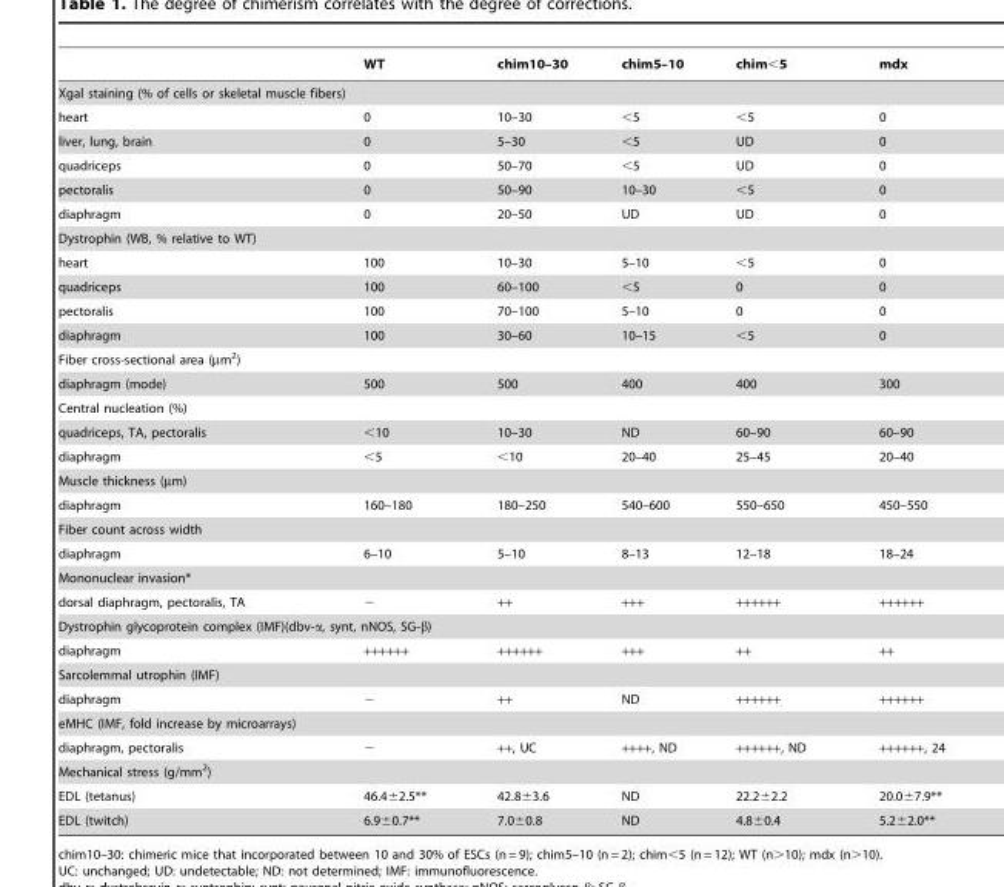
<table><thead><tr><td></td><td>WT</td><td>chim10–30</td><td>chim5–10</td><td>chim&lt;5</td><td>mdx</td></tr></thead><tbody><tr><td colspan="6">Xgal staining (% of cells or skeletal muscle fibers)</td></tr><tr><td>heart</td><td>0</td><td>10–30</td><td>&lt;5</td><td>&lt;5</td><td>0</td></tr><tr><td>liver, lung, brain</td><td>0</td><td>5–30</td><td>&lt;5</td><td>UD</td><td>0</td></tr><tr><td>quadriceps</td><td>0</td><td>50–70</td><td>&lt;5</td><td>UD</td><td>0</td></tr><tr><td>pectoralis</td><td>0</td><td>50–90</td><td>10–30</td><td>&lt;5</td><td>0</td></tr><tr><td>diaphragm</td><td>0</td><td>20–50</td><td>UD</td><td>UD</td><td>0</td></tr><tr><td colspan="6">Dystrophin (WB, % relative to WT)</td></tr><tr><td>heart</td><td>100</td><td>10–30</td><td>5–10</td><td>&lt;5</td><td>0</td></tr><tr><td>quadriceps</td><td>100</td><td>60–100</td><td>&lt;5</td><td>0</td><td>0</td></tr><tr><td>pectoralis</td><td>100</td><td>70–100</td><td>5–10</td><td>0</td><td>0</td></tr><tr><td>diaphragm</td><td>100</td><td>30–60</td><td>10–15</td><td>&lt;5</td><td>0</td></tr><tr><td colspan="6">Fiber cross-sectional area (µm<sup>2</sup>)</td></tr><tr><td>diaphragm (mode)</td><td>500</td><td>500</td><td>400</td><td>400</td><td>300</td></tr><tr><td colspan="6">Central nucleation (%)</td></tr><tr><td>quadriceps, TA, pectoralis</td><td>&lt;10</td><td>10–30</td><td>ND</td><td>60–90</td><td>60–90</td></tr><tr><td>diaphragm</td><td>&lt;5</td><td>&lt;10</td><td>20–40</td><td>25–45</td><td>20–40</td></tr><tr><td colspan="6">Muscle thickness (µm)</td></tr><tr><td>diaphragm</td><td>160–180</td><td>180–250</td><td>540–600</td><td>550–650</td><td>450–550</td></tr><tr><td colspan="6">Fiber count across width</td></tr><tr><td>diaphragm</td><td>6–10</td><td>5–10</td><td>8–13</td><td>12–18</td><td>18–24</td></tr><tr><td colspan="6">Mononuclear invasion*</td></tr><tr><td>dorsal diaphragm, pectoralis, TA</td><td>−</td><td>++</td><td>+++</td><td>++++++</td><td>++++++</td></tr><tr><td colspan="6">Dystrophin glycoprotein complex (IMF)(dbv-α, synt, nNOS, SG-β)</td></tr><tr><td>diaphragm</td><td>++++++</td><td>++++++</td><td>+++</td><td>++</td><td>++</td></tr><tr><td colspan="6">Sarcolemmal utrophin (IMF)</td></tr><tr><td>diaphragm</td><td>−</td><td>++</td><td>ND</td><td>++++++</td><td>++++++</td></tr><tr><td colspan="6">eMHC (IMF, fold increase by microarrays)</td></tr><tr><td>diaphragm, pectoralis</td><td>−</td><td>++, UC</td><td>++++, ND</td><td>++++++, ND</td><td>++++++, 24</td></tr><tr><td colspan="6">Mechanical stress (g/mm<sup>2</sup>)</td></tr><tr><td>EDL (tetanus)</td><td>46.4±2.5**</td><td>42.8±3.6</td><td>ND</td><td>22.2±2.2</td><td>20.0±7.9**</td></tr><tr><td>EDL (twitch)</td><td>6.9±0.7**</td><td>7.0±0.8</td><td>ND</td><td>4.8±0.4</td><td>5.2±2.0**</td></tr></tbody></table>